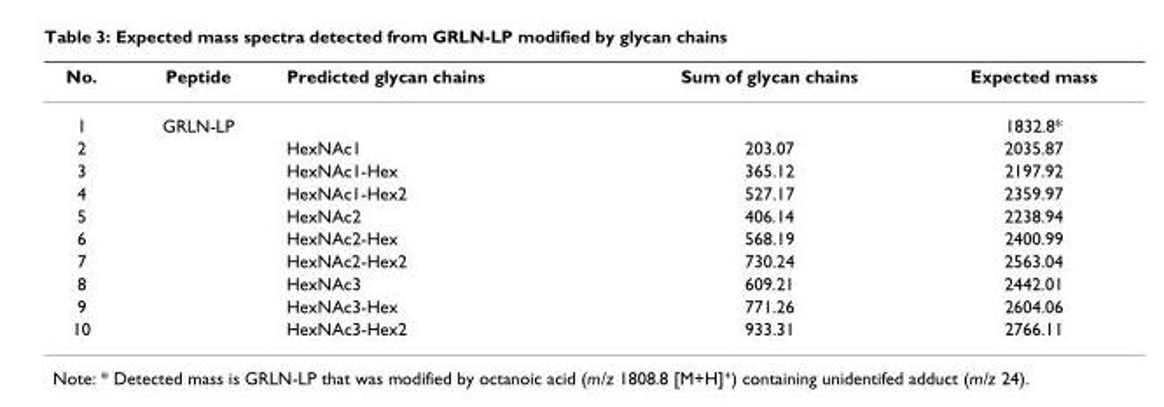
<table><thead><tr><td>No.</td><td>Peptide</td><td>Predicted glycan chains</td><td>Sum of glycan chains</td><td>Expected mass</td></tr></thead><tbody><tr><td>1</td><td>GRLN-LP</td><td></td><td></td><td>1832.8*</td></tr><tr><td>2</td><td></td><td>HexNAc1</td><td>203.07</td><td>2035.87</td></tr><tr><td>3</td><td></td><td>HexNAc1-Hex</td><td>365.12</td><td>2197.92</td></tr><tr><td>4</td><td></td><td>HexNAc1-Hex2</td><td>527.17</td><td>2359.97</td></tr><tr><td>5</td><td></td><td>HexNAc2</td><td>406.14</td><td>2238.94</td></tr><tr><td>6</td><td></td><td>HexNAc2-Hex</td><td>568.19</td><td>2400.99</td></tr><tr><td>7</td><td></td><td>HexNAc2-Hex2</td><td>730.24</td><td>2563.04</td></tr><tr><td>8</td><td></td><td>HexNAc3</td><td>609.21</td><td>2442.01</td></tr><tr><td>9</td><td></td><td>HexNAc3-Hex</td><td>771.26</td><td>2604.06</td></tr><tr><td>10</td><td></td><td>HexNAc3-Hex2</td><td>933.31</td><td>2766.11</td></tr></tbody></table>